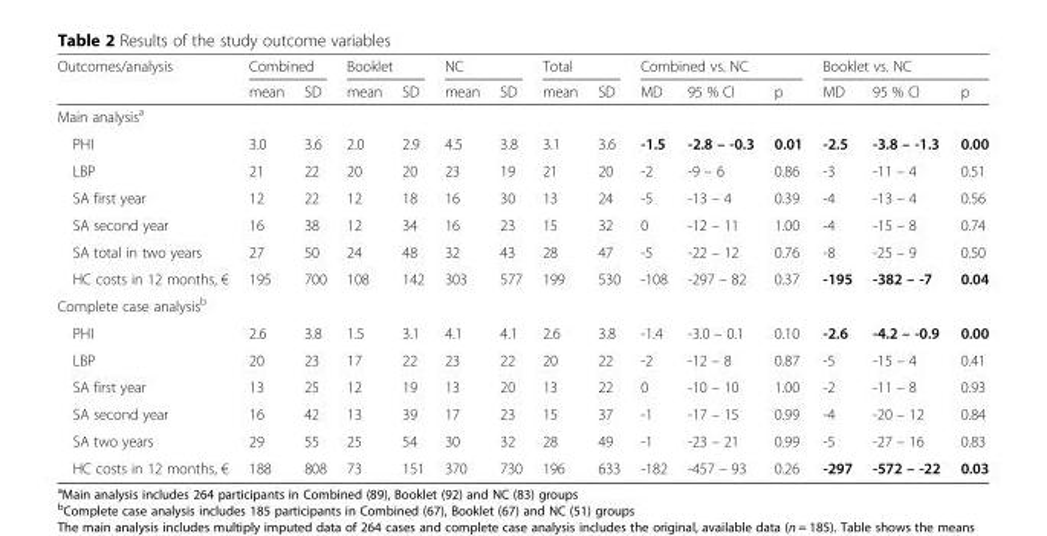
<table><thead><tr><td rowspan="2">Outcomes/analysis</td><td colspan="2">Combined</td><td colspan="2">Booklet</td><td colspan="2">NC</td><td colspan="2">Total</td><td colspan="3">Combined vs. NC</td><td colspan="3">Booklet vs. NC</td></tr><tr><td>mean</td><td>SD</td><td>mean</td><td>SD</td><td>mean</td><td>SD</td><td>mean</td><td>SD</td><td>MD</td><td>95 % CI</td><td>p</td><td>MD</td><td>95 % CI</td><td>p</td></tr></thead><tbody><tr><td colspan="15">Main analysis<sup>a</sup></td></tr><tr><td>PHI</td><td>3.0</td><td>3.6</td><td>2.0</td><td>2.9</td><td>4.5</td><td>3.8</td><td>3.1</td><td>3.6</td><td>-1.5</td><td>-2.8 – -0.3</td><td>0.01</td><td>-2.5</td><td>-3.8 – -1.3</td><td>0.00</td></tr><tr><td>LBP</td><td>21</td><td>22</td><td>20</td><td>20</td><td>23</td><td>19</td><td>21</td><td>20</td><td>-2</td><td>-9 – 6</td><td>0.86</td><td>-3</td><td>-11 – 4</td><td>0.51</td></tr><tr><td>SA first year</td><td>12</td><td>22</td><td>12</td><td>18</td><td>16</td><td>30</td><td>13</td><td>24</td><td>-5</td><td>-13 – 4</td><td>0.39</td><td>-4</td><td>-13 – 4</td><td>0.56</td></tr><tr><td>SA second year</td><td>16</td><td>38</td><td>12</td><td>34</td><td>16</td><td>23</td><td>15</td><td>32</td><td>0</td><td>-12 – 11</td><td>1.00</td><td>-4</td><td>-15 – 8</td><td>0.74</td></tr><tr><td>SA total in two years</td><td>27</td><td>50</td><td>24</td><td>48</td><td>32</td><td>43</td><td>28</td><td>47</td><td>-5</td><td>-22 – 12</td><td>0.76</td><td>-8</td><td>-25 – 9</td><td>0.50</td></tr><tr><td>HC costs in 12 months, €</td><td>195</td><td>700</td><td>108</td><td>142</td><td>303</td><td>577</td><td>199</td><td>530</td><td>-108</td><td>-297 – 82</td><td>0.37</td><td>-195</td><td>-382 – -7</td><td>0.04</td></tr><tr><td colspan="15">Complete case analysis<sup>b</sup></td></tr><tr><td>PHI</td><td>2.6</td><td>3.8</td><td>1.5</td><td>3.1</td><td>4.1</td><td>4.1</td><td>2.6</td><td>3.8</td><td>-1.4</td><td>-3.0 – 0.1</td><td>0.10</td><td>-2.6</td><td>-4.2 – -0.9</td><td>0.00</td></tr><tr><td>LBP</td><td>20</td><td>23</td><td>17</td><td>22</td><td>23</td><td>22</td><td>20</td><td>22</td><td>-2</td><td>-12 – 8</td><td>0.87</td><td>-5</td><td>-15 – 4</td><td>0.41</td></tr><tr><td>SA first year</td><td>13</td><td>25</td><td>12</td><td>19</td><td>13</td><td>20</td><td>13</td><td>22</td><td>0</td><td>-10 – 10</td><td>1.00</td><td>-2</td><td>-11 – 8</td><td>0.93</td></tr><tr><td>SA second year</td><td>16</td><td>42</td><td>13</td><td>39</td><td>17</td><td>23</td><td>15</td><td>37</td><td>-1</td><td>-17 – 15</td><td>0.99</td><td>-4</td><td>-20 – 12</td><td>0.84</td></tr><tr><td>SA two years</td><td>29</td><td>55</td><td>25</td><td>54</td><td>30</td><td>32</td><td>28</td><td>49</td><td>-1</td><td>-23 – 21</td><td>0.99</td><td>-5</td><td>-27 – 16</td><td>0.83</td></tr><tr><td>HC costs in 12 months, €</td><td>188</td><td>808</td><td>73</td><td>151</td><td>370</td><td>730</td><td>196</td><td>633</td><td>-182</td><td>-457 – 93</td><td>0.26</td><td>-297</td><td>-572 – -22</td><td>0.03</td></tr></tbody></table>